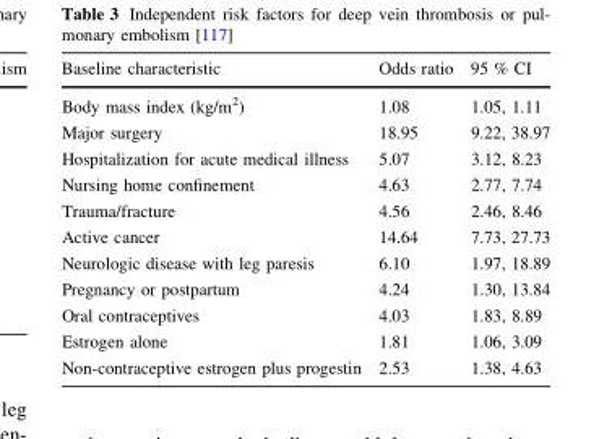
<table><thead><tr><td>Baseline characteristic</td><td>Odds ratio</td><td>95 % CI</td></tr></thead><tbody><tr><td>Body mass index (kg/m<sup>2</sup>)</td><td>1.08</td><td>1.05, 1.11</td></tr><tr><td>Major surgery</td><td>18.95</td><td>9.22, 38.97</td></tr><tr><td>Hospitalization for acute medical illness</td><td>5.07</td><td>3.12, 8.23</td></tr><tr><td>Nursing home confinement</td><td>4.63</td><td>2.77, 7.74</td></tr><tr><td>Trauma/fracture</td><td>4.56</td><td>2.46, 8.46</td></tr><tr><td>Active cancer</td><td>14.64</td><td>7.73, 27.73</td></tr><tr><td>Neurologic disease with leg paresis</td><td>6.10</td><td>1.97, 18.89</td></tr><tr><td>Pregnancy or postpartum</td><td>4.24</td><td>1.30, 13.84</td></tr><tr><td>Oral contraceptives</td><td>4.03</td><td>1.83, 8.89</td></tr><tr><td>Estrogen alone</td><td>1.81</td><td>1.06, 3.09</td></tr><tr><td>Non-contraceptive estrogen plus progestin</td><td>2.53</td><td>1.38, 4.63</td></tr></tbody></table>